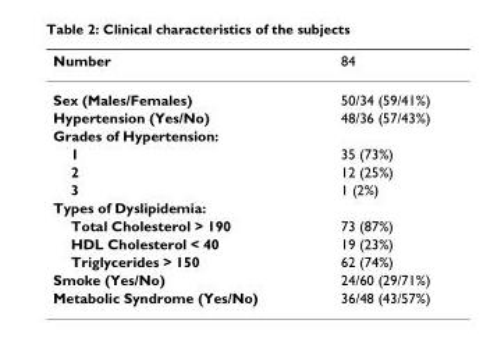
<table><thead><tr><td>Number</td><td>84</td></tr></thead><tbody><tr><td>Sex (Males/Females)</td><td>50/34 (59/41%)</td></tr><tr><td>Hypertension (Yes/No)</td><td>48/36 (57/43%)</td></tr><tr><td colspan="2">Grades of Hypertension:</td></tr><tr><td>1</td><td>35 (73%)</td></tr><tr><td>2</td><td>12 (25%)</td></tr><tr><td>3</td><td>1 (2%)</td></tr><tr><td colspan="2">Types of Dyslipidemia:</td></tr><tr><td>Total Cholesterol &gt; 190</td><td>73 (87%)</td></tr><tr><td>HDL Cholesterol &lt; 40</td><td>19 (23%)</td></tr><tr><td>Triglycerides &gt; 150</td><td>62 (74%)</td></tr><tr><td>Smoke (Yes/No)</td><td>24/60 (29/71%)</td></tr><tr><td>Metabolic Syndrome (Yes/No)</td><td>36/48 (43/57%)</td></tr></tbody></table>